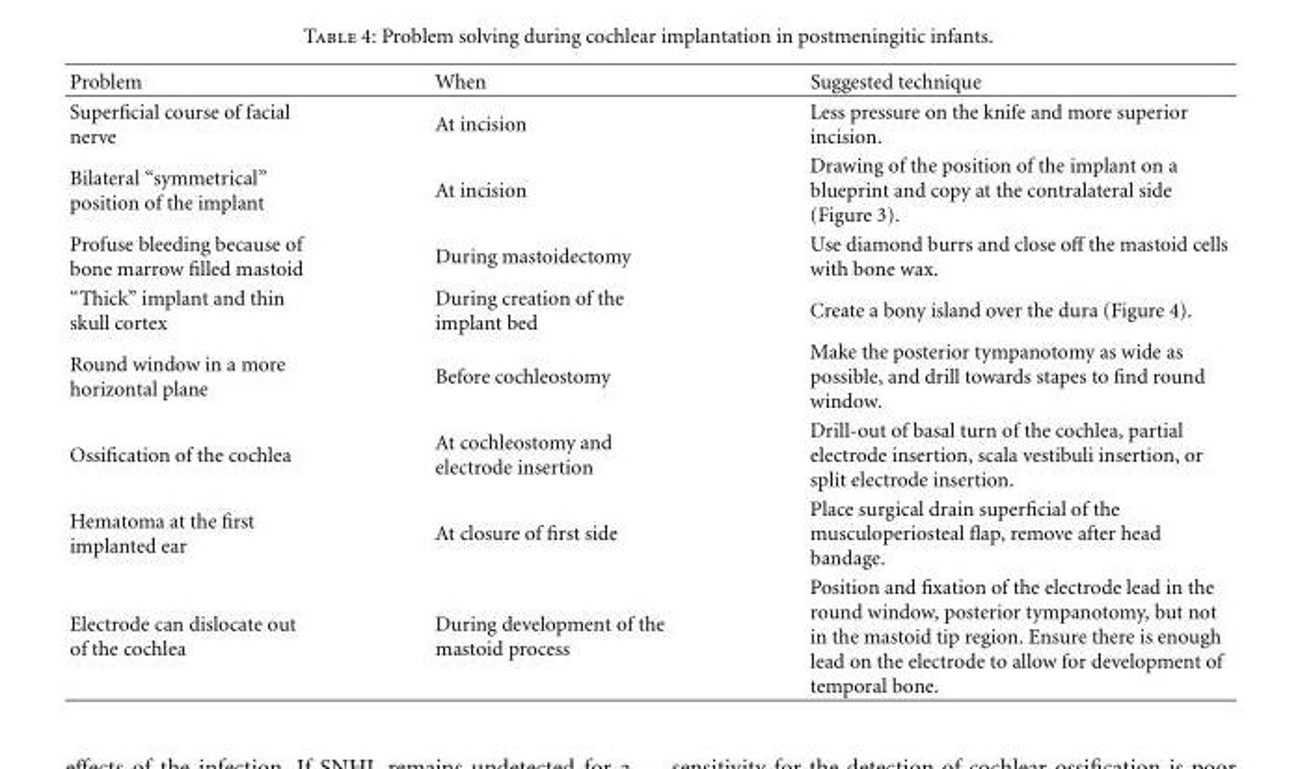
<table><thead><tr><td>Problem</td><td>When</td><td>Suggested technique</td></tr></thead><tbody><tr><td>Superficial course of facial nerve</td><td>At incision</td><td>Less pressure on the knife and more superior incision.</td></tr><tr><td>Bilateral “symmetrical” position of the implant</td><td>At incision</td><td>Drawing of the position of the implant on a blueprint and copy at the contralateral side (Figure 3).</td></tr><tr><td>Profuse bleeding because of bone marrow filled mastoid</td><td>During mastoidectomy</td><td>Use diamond burrs and close off the mastoid cells with bone wax.</td></tr><tr><td>“Thick” implant and thin skull cortex</td><td>During creation of the implant bed</td><td>Create a bony island over the dura (Figure 4).</td></tr><tr><td>Round window in a more horizontal plane</td><td>Before cochleostomy</td><td>Make the posterior tympanotomy as wide as possible, and drill towards stapes to find round window.</td></tr><tr><td>Ossification of the cochlea</td><td>At cochleostomy and electrode insertion</td><td>Drill-out of basal turn of the cochlea, partial electrode insertion, scala vestibuli insertion, or split electrode insertion.</td></tr><tr><td>Hematoma at the first implanted ear</td><td>At closure of first side</td><td>Place surgical drain superficial of the musculoperiosteal flap, remove after head bandage.</td></tr><tr><td>Electrode can dislocate out of the cochlea</td><td>During development of the mastoid process</td><td>Position and fixation of the electrode lead in the round window, posterior tympanotomy, but not in the mastoid tip region. Ensure there is enough lead on the electrode to allow for development of temporal bone.</td></tr></tbody></table>